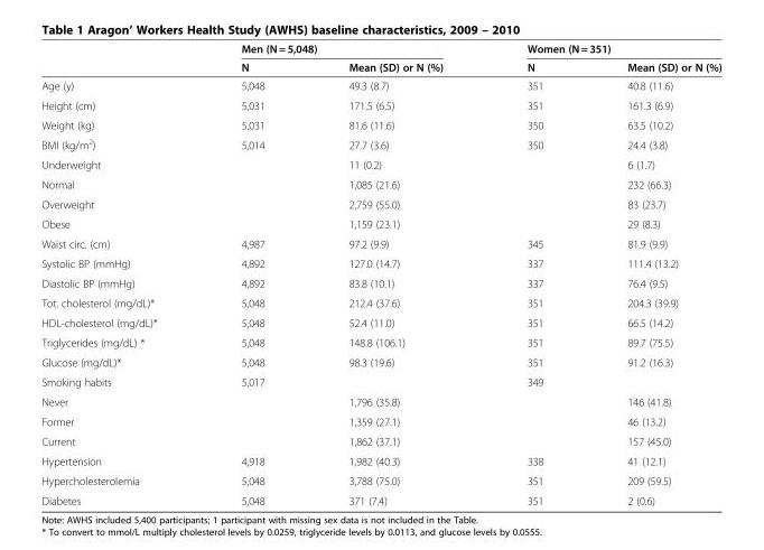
<table><thead><tr><td rowspan="2"></td><td colspan="2">Men (N = 5,048)</td><td colspan="2">Women (N = 351)</td></tr><tr><td>N</td><td>Mean (SD) or N (%)</td><td>N</td><td>Mean (SD) or N (%)</td></tr></thead><tbody><tr><td>Age (y)</td><td>5,048</td><td>49.3 (8.7)</td><td>351</td><td>40.8 (11.6)</td></tr><tr><td>Height (cm)</td><td>5,031</td><td>171.5 (6.5)</td><td>351</td><td>161.3 (6.9)</td></tr><tr><td>Weight (kg)</td><td>5,031</td><td>81.6 (11.6)</td><td>350</td><td>63.5 (10.2)</td></tr><tr><td>BMI (kg/m<sup>2</sup>)</td><td>5,014</td><td>27.7 (3.6)</td><td>350</td><td>24.4 (3.8)</td></tr><tr><td>Underweight</td><td></td><td>11 (0.2)</td><td></td><td>6 (1.7)</td></tr><tr><td>Normal</td><td></td><td>1,085 (21.6)</td><td></td><td>232 (66.3)</td></tr><tr><td>Overweight</td><td></td><td>2,759 (55.0)</td><td></td><td>83 (23.7)</td></tr><tr><td>Obese</td><td></td><td>1,159 (23.1)</td><td></td><td>29 (8.3)</td></tr><tr><td>Waist circ. (cm)</td><td>4,987</td><td>97.2 (9.9)</td><td>345</td><td>81.9 (9.9)</td></tr><tr><td>Systolic BP (mmHg)</td><td>4,892</td><td>127.0 (14.7)</td><td>337</td><td>111.4 (13.2)</td></tr><tr><td>Diastolic BP (mmHg)</td><td>4,892</td><td>83.8 (10.1)</td><td>337</td><td>76.4 (9.5)</td></tr><tr><td>Tot. cholesterol (mg/dL)*</td><td>5,048</td><td>212.4 (37.6)</td><td>351</td><td>204.3 (39.9)</td></tr><tr><td>HDL-cholesterol (mg/dL)*</td><td>5,048</td><td>52.4 (11.0)</td><td>351</td><td>66.5 (14.2)</td></tr><tr><td>Triglycerides (mg/dL) *</td><td>5,048</td><td>148.8 (106.1)</td><td>351</td><td>89.7 (75.5)</td></tr><tr><td>Glucose (mg/dL)*</td><td>5,048</td><td>98.3 (19.6)</td><td>351</td><td>91.2 (16.3)</td></tr><tr><td>Smoking habits</td><td>5,017</td><td></td><td>349</td><td></td></tr><tr><td>Never</td><td></td><td>1,796 (35.8)</td><td></td><td>146 (41.8)</td></tr><tr><td>Former</td><td></td><td>1,359 (27.1)</td><td></td><td>46 (13.2)</td></tr><tr><td>Current</td><td></td><td>1,862 (37.1)</td><td></td><td>157 (45.0)</td></tr><tr><td>Hypertension</td><td>4,918</td><td>1,982 (40.3)</td><td>338</td><td>41 (12.1)</td></tr><tr><td>Hypercholesterolemia</td><td>5,048</td><td>3,788 (75.0)</td><td>351</td><td>209 (59.5)</td></tr><tr><td>Diabetes</td><td>5,048</td><td>371 (7.4)</td><td>351</td><td>2 (0.6)</td></tr></tbody></table>